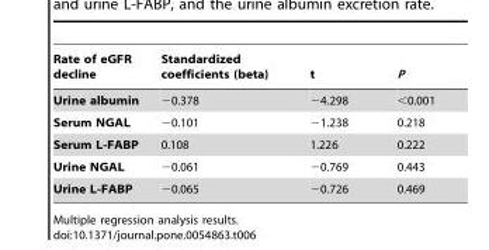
<table><thead><tr><td>Rate of eGFR decline</td><td>Standardized coefficients (beta)</td><td>t</td><td>P</td></tr></thead><tbody><tr><td>Urine albumin</td><td>−0.378</td><td>−4.298</td><td>&lt;0.001</td></tr><tr><td>Serum NGAL</td><td>−0.101</td><td>−1.238</td><td>0.218</td></tr><tr><td>Serum L-FABP</td><td>0.108</td><td>1.226</td><td>0.222</td></tr><tr><td>Urine NGAL</td><td>−0.061</td><td>−0.769</td><td>0.443</td></tr><tr><td>Urine L-FABP</td><td>−0.065</td><td>−0.726</td><td>0.469</td></tr></tbody></table>